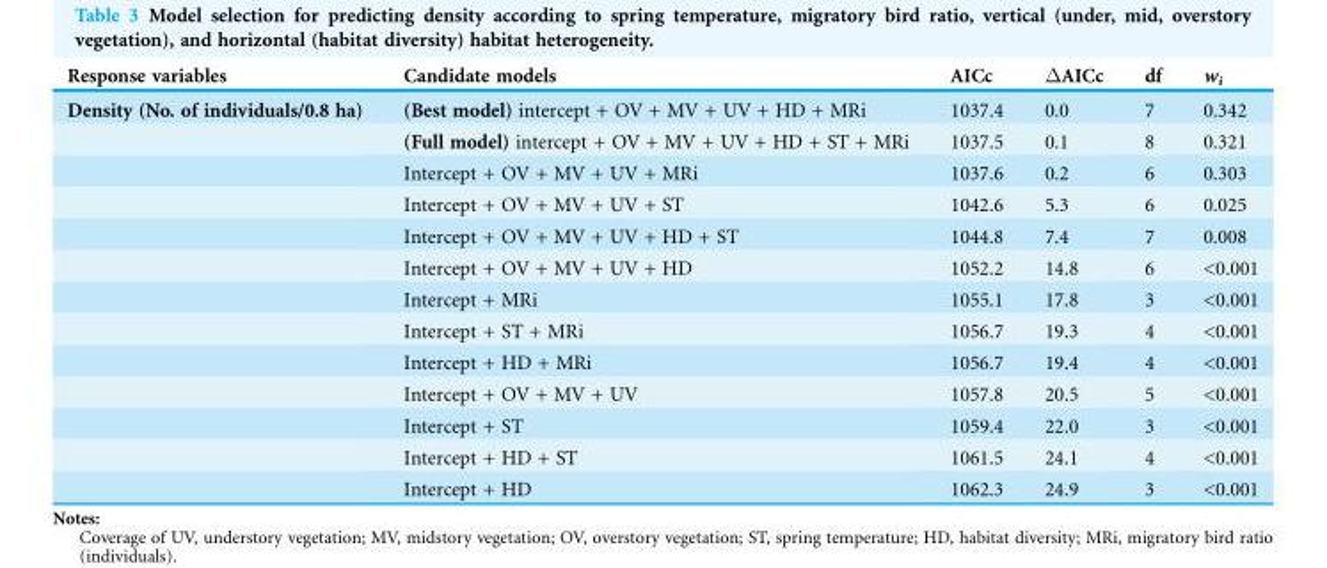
<table><thead><tr><td>Response variables</td><td>Candidate models</td><td>AICc</td><td>ΔAICc</td><td>df</td><td>w<sub>i</sub></td></tr></thead><tbody><tr><td rowspan="13">Density (No. of individuals/0.8 ha)</td><td>(Best model) intercept + OV + MV + UV + HD + MRi</td><td>1037.4</td><td>0.0</td><td>7</td><td>0.342</td></tr><tr><td>(Full model) intercept + OV + MV + UV + HD + ST + MRi</td><td>1037.5</td><td>0.1</td><td>8</td><td>0.321</td></tr><tr><td>Intercept + OV + MV + UV + MRi</td><td>1037.6</td><td>0.2</td><td>6</td><td>0.303</td></tr><tr><td>Intercept + OV + MV + UV + ST</td><td>1042.6</td><td>5.3</td><td>6</td><td>0.025</td></tr><tr><td>Intercept + OV + MV + UV + HD + ST</td><td>1044.8</td><td>7.4</td><td>7</td><td>0.008</td></tr><tr><td>Intercept + OV + MV + UV + HD</td><td>1052.2</td><td>14.8</td><td>6</td><td>&lt;0.001</td></tr><tr><td>Intercept + MRi</td><td>1055.1</td><td>17.8</td><td>3</td><td>&lt;0.001</td></tr><tr><td>Intercept + ST + MRi</td><td>1056.7</td><td>19.3</td><td>4</td><td>&lt;0.001</td></tr><tr><td>Intercept + HD + MRi</td><td>1056.7</td><td>19.4</td><td>4</td><td>&lt;0.001</td></tr><tr><td>Intercept + OV + MV + UV</td><td>1057.8</td><td>20.5</td><td>5</td><td>&lt;0.001</td></tr><tr><td>Intercept + ST</td><td>1059.4</td><td>22.0</td><td>3</td><td>&lt;0.001</td></tr><tr><td>Intercept + HD + ST</td><td>1061.5</td><td>24.1</td><td>4</td><td>&lt;0.001</td></tr><tr><td>Intercept + HD</td><td>1062.3</td><td>24.9</td><td>3</td><td>&lt;0.001</td></tr></tbody></table>